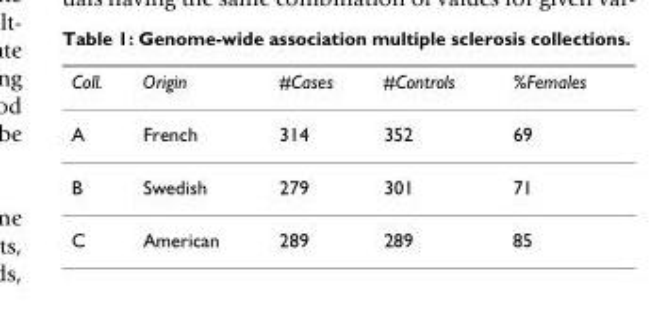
<table><thead><tr><td>Coll.</td><td>Origin</td><td>#Cases</td><td>#Controls</td><td>%Females</td></tr></thead><tbody><tr><td>A</td><td>French</td><td>314</td><td>352</td><td>69</td></tr><tr><td>B</td><td>Swedish</td><td>279</td><td>301</td><td>71</td></tr><tr><td>C</td><td>American</td><td>289</td><td>289</td><td>85</td></tr></tbody></table>